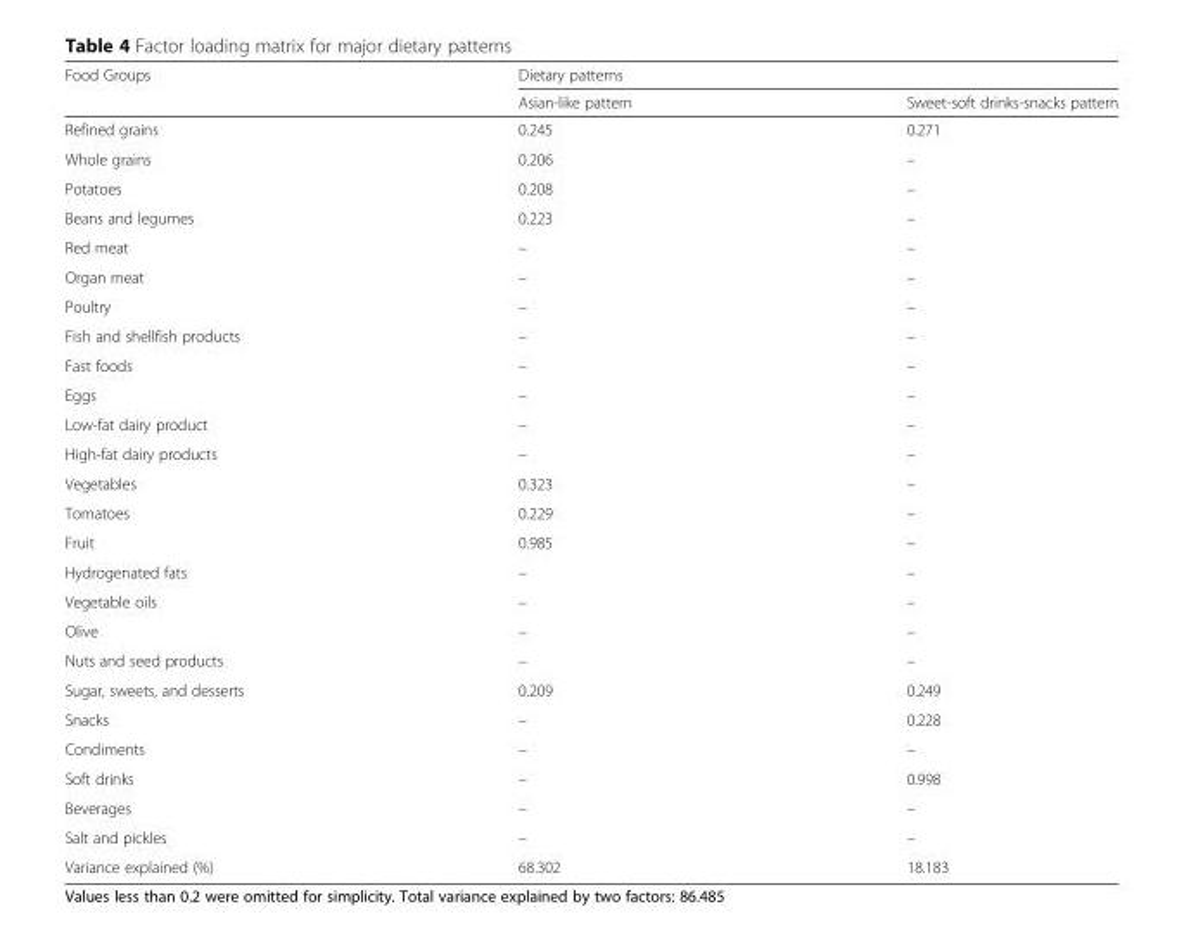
<table><thead><tr><td rowspan="2">Food Groups</td><td colspan="2">Dietary patterns</td></tr><tr><td>Asian-like pattern</td><td>Sweet-soft drinks-snacks pattern</td></tr></thead><tbody><tr><td>Refined grains</td><td>0.245</td><td>0.271</td></tr><tr><td>Whole grains</td><td>0.206</td><td>–</td></tr><tr><td>Potatoes</td><td>0.208</td><td>–</td></tr><tr><td>Beans and legumes</td><td>0.223</td><td>–</td></tr><tr><td>Red meat</td><td>–</td><td>–</td></tr><tr><td>Organ meat</td><td>–</td><td>–</td></tr><tr><td>Poultry</td><td>–</td><td>–</td></tr><tr><td>Fish and shellfish products</td><td>–</td><td>–</td></tr><tr><td>Fast foods</td><td>–</td><td>–</td></tr><tr><td>Eggs</td><td>–</td><td>–</td></tr><tr><td>Low-fat dairy product</td><td>–</td><td>–</td></tr><tr><td>High-fat dairy products</td><td>–</td><td>–</td></tr><tr><td>Vegetables</td><td>0.323</td><td>–</td></tr><tr><td>Tomatoes</td><td>0.229</td><td>–</td></tr><tr><td>Fruit</td><td>0.985</td><td>–</td></tr><tr><td>Hydrogenated fats</td><td>–</td><td>–</td></tr><tr><td>Vegetable oils</td><td>–</td><td>–</td></tr><tr><td>Olive</td><td>–</td><td>–</td></tr><tr><td>Nuts and seed products</td><td>–</td><td>–</td></tr><tr><td>Sugar, sweets, and desserts</td><td>0.209</td><td>0.249</td></tr><tr><td>Snacks</td><td>–</td><td>0.228</td></tr><tr><td>Condiments</td><td>–</td><td>–</td></tr><tr><td>Soft drinks</td><td>–</td><td>0.998</td></tr><tr><td>Beverages</td><td>–</td><td>–</td></tr><tr><td>Salt and pickles</td><td>–</td><td>–</td></tr><tr><td>Variance explained (%)</td><td>68.302</td><td>18.183</td></tr></tbody></table>